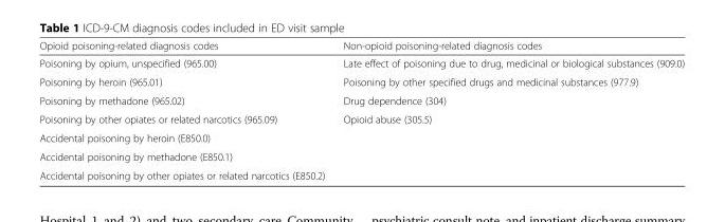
<table><thead><tr><td>Opioid poisoning-related diagnosis codes</td><td>Non-opioid poisoning-related diagnosis codes</td></tr></thead><tbody><tr><td>Poisoning by opium, unspecified (965.00)</td><td>Late effect of poisoning due to drug, medicinal or biological substances (909.0)</td></tr><tr><td>Poisoning by heroin (965.01)</td><td>Poisoning by other specified drugs and medicinal substances (977.9)</td></tr><tr><td>Poisoning by methadone (965.02)</td><td>Drug dependence (304)</td></tr><tr><td>Poisoning by other opiates or related narcotics (965.09)</td><td>Opioid abuse (305.5)</td></tr><tr><td colspan="2">Accidental poisoning by heroin (E850.0)</td></tr><tr><td colspan="2">Accidental poisoning by methadone (E850.1)</td></tr><tr><td>Accidental poisoning by other opiates or related narcotics (E850.2)</td><td></td></tr></tbody></table>